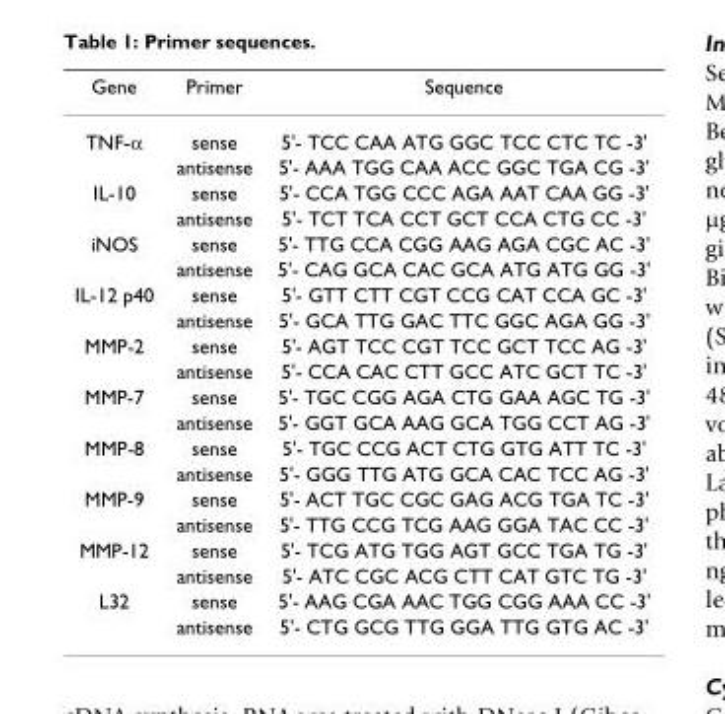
<table><thead><tr><td>Gene</td><td>Primer</td><td>Sequence</td></tr></thead><tbody><tr><td rowspan="2">TNF-α</td><td>sense</td><td>5&#x27;- TCC CAA ATG GGC TCC CTC TC -3&#x27;</td></tr><tr><td>antisense</td><td>5&#x27;- AAA TGG CAA ACC GGC TGA CG -3&#x27;</td></tr><tr><td rowspan="2">IL-10</td><td>sense</td><td>5&#x27;- CCA TGG CCC AGA AAT CAA GG -3&#x27;</td></tr><tr><td>antisense</td><td>5&#x27;- TCT TCA CCT GCT CCA CTG CC -3&#x27;</td></tr><tr><td rowspan="2">iNOS</td><td>sense</td><td>5&#x27;- TTG CCA CGG AAG AGA CGC AC -3&#x27;</td></tr><tr><td>antisense</td><td>5&#x27;- CAG GCA CAC GCA ATG ATG GG -3&#x27;</td></tr><tr><td rowspan="2">IL-12 p40</td><td>sense</td><td>5&#x27;- GTT CTT CGT CCG CAT CCA GC -3&#x27;</td></tr><tr><td>antisense</td><td>5&#x27;- GCA TTG GAC TTC GGC AGA GG -3&#x27;</td></tr><tr><td rowspan="2">MMP-2</td><td>sense</td><td>5&#x27;- AGT TCC CGT TCC GCT TCC AG -3&#x27;</td></tr><tr><td>antisense</td><td>5&#x27;- CCA CAC CTT GCC ATC GCT TC -3&#x27;</td></tr><tr><td rowspan="2">MMP-7</td><td>sense</td><td>5&#x27;- TGC CGG AGA CTG GAA AGC TG -3&#x27;</td></tr><tr><td>antisense</td><td>5&#x27;- GGT GCA AAG GCA TGG CCT AG -3&#x27;</td></tr><tr><td rowspan="2">MMP-8</td><td>sense</td><td>5&#x27;- TGC CCG ACT CTG GTG ATT TC -3&#x27;</td></tr><tr><td>antisense</td><td>5&#x27;- GGG TTG ATG GCA CAC TCC AG -3&#x27;</td></tr><tr><td rowspan="2">MMP-9</td><td>sense</td><td>5&#x27;- ACT TGC CGC GAG ACG TGA TC -3&#x27;</td></tr><tr><td>antisense</td><td>5&#x27;- TTG CCG TCG AAG GGA TAC CC -3&#x27;</td></tr><tr><td rowspan="2">MMP-12</td><td>sense</td><td>5&#x27;- TCG ATG TGG AGT GCC TGA TG -3&#x27;</td></tr><tr><td>antisense</td><td>5&#x27;- ATC CGC ACG CTT CAT GTC TG -3&#x27;</td></tr><tr><td rowspan="2">L32</td><td>sense</td><td>5&#x27;- AAG CGA AAC TGG CGG AAA CC -3&#x27;</td></tr><tr><td>antisense</td><td>5&#x27;- CTG GCG TTG GGA TTG GTG AC -3&#x27;</td></tr></tbody></table>